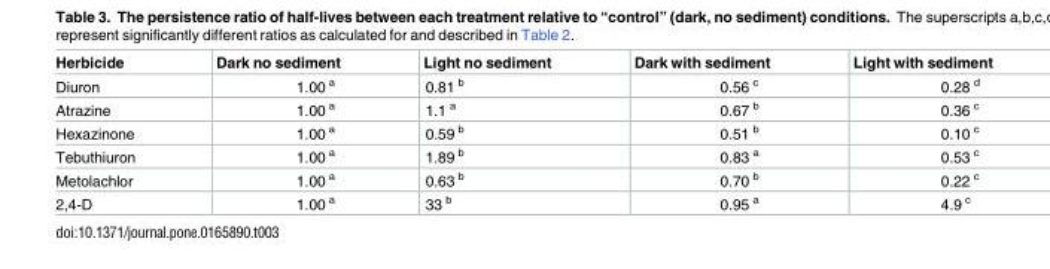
<table><thead><tr><td>Herbicide</td><td>Dark no sediment</td><td>Light no sediment</td><td>Dark with sediment</td><td>Light with sediment</td></tr></thead><tbody><tr><td>Diuron</td><td>1.00 <sup>a</sup></td><td>0.81 <sup>b</sup></td><td>0.56 <sup>c</sup></td><td>0.28 <sup>d</sup></td></tr><tr><td>Atrazine</td><td>1.00 <sup>a</sup></td><td>1.1 <sup>a</sup></td><td>0.67 <sup>b</sup></td><td>0.36 <sup>c</sup></td></tr><tr><td>Hexazinone</td><td>1.00 <sup>a</sup></td><td>0.59 <sup>b</sup></td><td>0.51 <sup>b</sup></td><td>0.10 <sup>c</sup></td></tr><tr><td>Tebuthiuron</td><td>1.00 <sup>a</sup></td><td>1.89 <sup>b</sup></td><td>0.83 <sup>a</sup></td><td>0.53 <sup>c</sup></td></tr><tr><td>Metolachlor</td><td>1.00 <sup>a</sup></td><td>0.63 <sup>b</sup></td><td>0.70 <sup>b</sup></td><td>0.22 <sup>c</sup></td></tr><tr><td>2,4-D</td><td>1.00 <sup>a</sup></td><td>33 <sup>b</sup></td><td>0.95 <sup>a</sup></td><td>4.9 <sup>c</sup></td></tr></tbody></table>